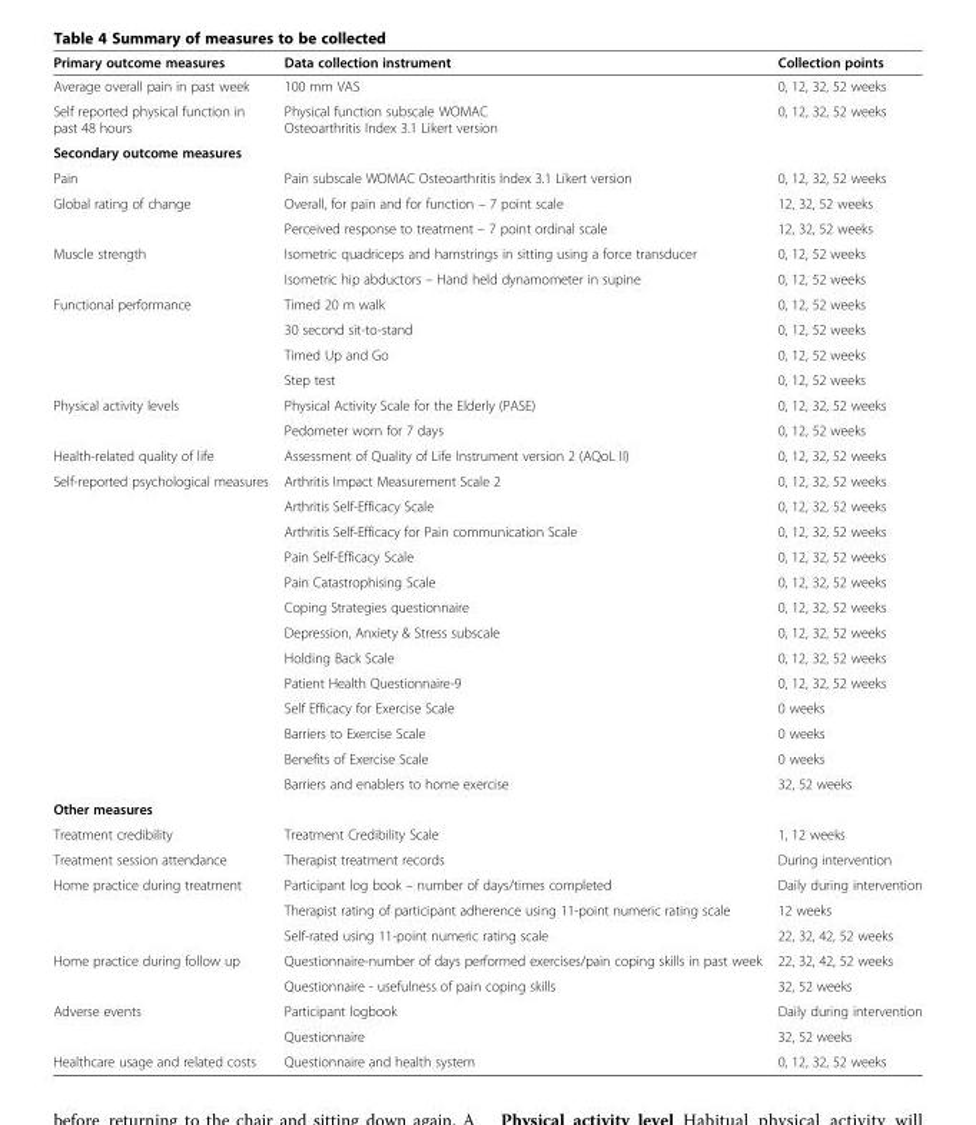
<table><thead><tr><td>Primary outcome measures</td><td>Data collection instrument</td><td>Collection points</td></tr></thead><tbody><tr><td>Average overall pain in past week</td><td>100 mm VAS</td><td>0, 12, 32, 52 weeks</td></tr><tr><td>Self reported physical function in past 48 hours</td><td>Physical function subscale WOMAC Osteoarthritis Index 3.1 Likert version</td><td>0, 12, 32, 52 weeks</td></tr><tr><td colspan="3">Secondary outcome measures</td></tr><tr><td>Pain</td><td>Pain subscale WOMAC Osteoarthritis Index 3.1 Likert version</td><td>0, 12, 32, 52 weeks</td></tr><tr><td rowspan="2">Global rating of change</td><td>Overall, for pain and for function – 7 point scale</td><td>12, 32, 52 weeks</td></tr><tr><td>Perceived response to treatment – 7 point ordinal scale</td><td>12, 32, 52 weeks</td></tr><tr><td rowspan="2">Muscle strength</td><td>Isometric quadriceps and hamstrings in sitting using a force transducer</td><td>0, 12, 52 weeks</td></tr><tr><td>Isometric hip abductors – Hand held dynamometer in supine</td><td>0, 12, 52 weeks</td></tr><tr><td rowspan="4">Functional performance</td><td>Timed 20 m walk</td><td>0, 12, 52 weeks</td></tr><tr><td>30 second sit-to-stand</td><td>0, 12, 52 weeks</td></tr><tr><td>Timed Up and Go</td><td>0, 12, 52 weeks</td></tr><tr><td>Step test</td><td>0, 12, 52 weeks</td></tr><tr><td rowspan="2">Physical activity levels</td><td>Physical Activity Scale for the Elderly (PASE)</td><td>0, 12, 32, 52 weeks</td></tr><tr><td>Pedometer worn for 7 days</td><td>0, 12, 52 weeks</td></tr><tr><td>Health-related quality of life</td><td>Assessment of Quality of Life Instrument version 2 (AQoL II)</td><td>0, 12, 32, 52 weeks</td></tr><tr><td rowspan="13">Self-reported psychological measures</td><td>Arthritis Impact Measurement Scale 2</td><td>0, 12, 32, 52 weeks</td></tr><tr><td>Arthritis Self-Efficacy Scale</td><td>0, 12, 32, 52 weeks</td></tr><tr><td>Arthritis Self-Efficacy for Pain communication Scale</td><td>0, 12, 32, 52 weeks</td></tr><tr><td>Pain Self-Efficacy Scale</td><td>0, 12, 32, 52 weeks</td></tr><tr><td>Pain Catastrophising Scale</td><td>0, 12, 32, 52 weeks</td></tr><tr><td>Coping Strategies questionnaire</td><td>0, 12, 32, 52 weeks</td></tr><tr><td>Depression, Anxiety &amp; Stress subscale</td><td>0, 12, 32, 52 weeks</td></tr><tr><td>Holding Back Scale</td><td>0, 12, 32, 52 weeks</td></tr><tr><td>Patient Health Questionnaire-9</td><td>0, 12, 32, 52 weeks</td></tr><tr><td>Self Efficacy for Exercise Scale</td><td>0 weeks</td></tr><tr><td>Barriers to Exercise Scale</td><td>0 weeks</td></tr><tr><td>Benefits of Exercise Scale</td><td>0 weeks</td></tr><tr><td>Barriers and enablers to home exercise</td><td>32, 52 weeks</td></tr><tr><td colspan="3">Other measures</td></tr><tr><td>Treatment credibility</td><td>Treatment Credibility Scale</td><td>1, 12 weeks</td></tr><tr><td>Treatment session attendance</td><td>Therapist treatment records</td><td>During intervention</td></tr><tr><td rowspan="3">Home practice during treatment</td><td>Participant log book – number of days/times completed</td><td>Daily during intervention</td></tr><tr><td>Therapist rating of participant adherence using 11-point numeric rating scale</td><td>12 weeks</td></tr><tr><td>Self-rated using 11-point numeric rating scale</td><td>22, 32, 42, 52 weeks</td></tr><tr><td rowspan="2">Home practice during follow up</td><td>Questionnaire-number of days performed exercises/pain coping skills in past week</td><td>22, 32, 42, 52 weeks</td></tr><tr><td>Questionnaire - usefulness of pain coping skills</td><td>32, 52 weeks</td></tr><tr><td rowspan="2">Adverse events</td><td>Participant logbook</td><td>Daily during intervention</td></tr><tr><td>Questionnaire</td><td>32, 52 weeks</td></tr><tr><td>Healthcare usage and related costs</td><td>Questionnaire and health system</td><td>0, 12, 32, 52 weeks</td></tr></tbody></table>